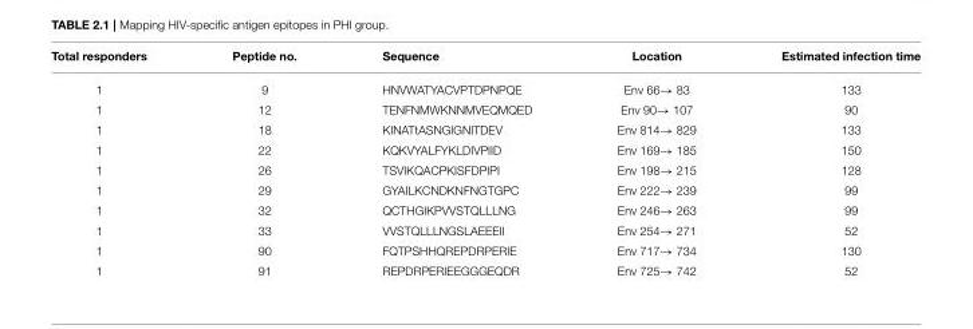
<table><thead><tr><td>Total responders</td><td>Peptide no.</td><td>Sequence</td><td>Location</td><td>Estimated infection time</td></tr></thead><tbody><tr><td>1</td><td>9</td><td>HNVWATYACVPTDPNPQE</td><td>Env 66→ 83</td><td>133</td></tr><tr><td>1</td><td>12</td><td>TENFNMWKNNMVEQMQED</td><td>Env 90→ 107</td><td>90</td></tr><tr><td>1</td><td>18</td><td>KINATtASNGIGNITDEV</td><td>Env 814→ 829</td><td>133</td></tr><tr><td>1</td><td>22</td><td>KQKVYALFYKLDIVPIID</td><td>Env 169→ 185</td><td>150</td></tr><tr><td>1</td><td>26</td><td>TSVIKQACPKISFDPIPI</td><td>Env 198→ 215</td><td>128</td></tr><tr><td>1</td><td>29</td><td>GYAILKCNDKNFNGTGPC</td><td>Env 222→ 239</td><td>99</td></tr><tr><td>1</td><td>32</td><td>QCTHGIKPVVSTQLLLNG</td><td>Env 246→ 263</td><td>99</td></tr><tr><td>1</td><td>33</td><td>VVSTQLLLNGSLAEEEII</td><td>Env 254→ 271</td><td>52</td></tr><tr><td>1</td><td>90</td><td>FQTPSHHQREPDRPERIE</td><td>Env 717→ 734</td><td>130</td></tr><tr><td>1</td><td>91</td><td>REPDRPERIEEGGGEQDR</td><td>Env 725→ 742</td><td>52</td></tr></tbody></table>